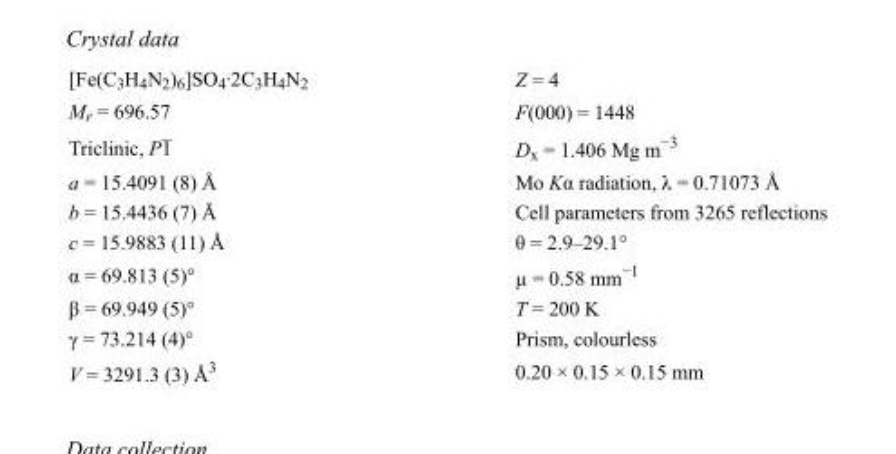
<table><tbody><tr><td>[Fe(C<sub>3</sub>H<sub>4</sub>N<sub>2</sub>)<sub>6</sub>]SO<sub>4</sub>·2C<sub>3</sub>H<sub>4</sub>N<sub>2</sub></td><td>Z = 4</td></tr><tr><td>M<sub>r</sub> = 696.57</td><td>F(000) = 1448</td></tr><tr><td>Triclinic, P1</td><td>D<sub>x</sub> = 1.406 Mg m<sup>−3</sup></td></tr><tr><td>a = 15.4091 (8) Å</td><td>Mo Kα radiation, λ = 0.71073 Å</td></tr><tr><td>b = 15.4436 (7) Å</td><td>Cell parameters from 3265 reflections</td></tr><tr><td>c = 15.9883 (11) Å</td><td>θ = 2.9–29.1°</td></tr><tr><td>α = 69.813 (5)°</td><td>µ = 0.58 mm<sup>−1</sup></td></tr><tr><td>β = 69.949 (5)°</td><td>T = 200 K</td></tr><tr><td>γ = 73.214 (4)°</td><td>Prism, colourless</td></tr><tr><td>V = 3291.3 (3) Å<sup>3</sup></td><td>0.20 × 0.15 × 0.15 mm</td></tr></tbody></table>